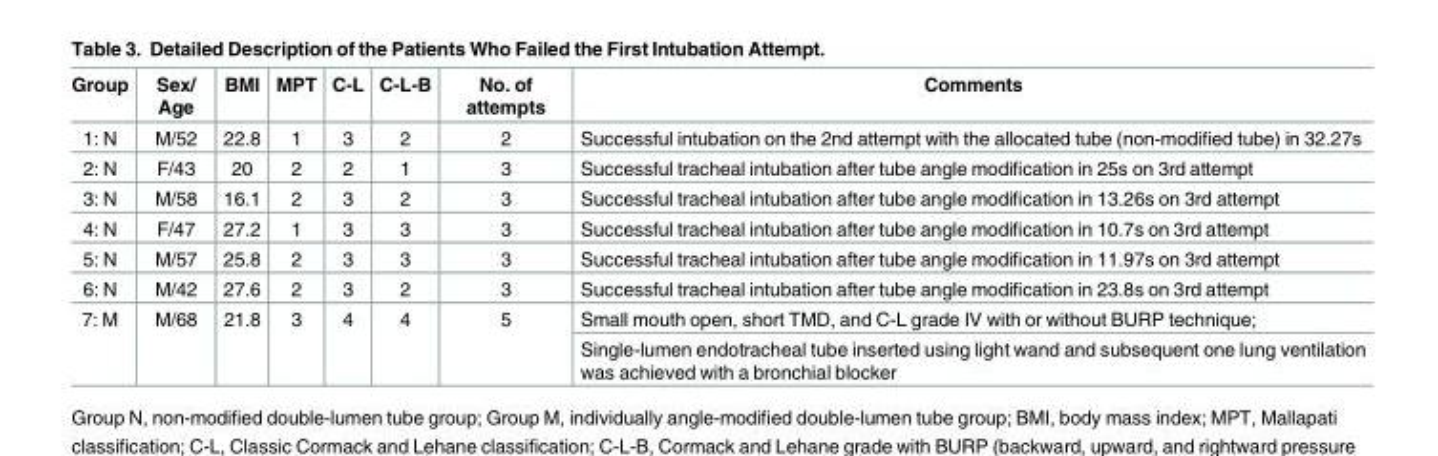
<table><thead><tr><td>Group</td><td>Sex/ Age</td><td>BMI</td><td>MPT</td><td>C-L</td><td>C-L-B</td><td>No. of attempts</td><td>Comments</td></tr></thead><tbody><tr><td>1: N</td><td>M/52</td><td>22.8</td><td>1</td><td>3</td><td>2</td><td>2</td><td>Successful intubation on the 2nd attempt with the allocated tube (non-modified tube) in 32.27s</td></tr><tr><td>2: N</td><td>F/43</td><td>20</td><td>2</td><td>2</td><td>1</td><td>3</td><td>Successful tracheal intubation after tube angle modification in 25s on 3rd attempt</td></tr><tr><td>3: N</td><td>M/58</td><td>16.1</td><td>2</td><td>3</td><td>2</td><td>3</td><td>Successful tracheal intubation after tube angle modification in 13.26s on 3rd attempt</td></tr><tr><td>4: N</td><td>F/47</td><td>27.2</td><td>1</td><td>3</td><td>3</td><td>3</td><td>Successful tracheal intubation after tube angle modification in 10.7s on 3rd attempt</td></tr><tr><td>5: N</td><td>M/57</td><td>25.8</td><td>2</td><td>3</td><td>3</td><td>3</td><td>Successful tracheal intubation after tube angle modification in 11.97s on 3rd attempt</td></tr><tr><td>6: N</td><td>M/42</td><td>27.6</td><td>2</td><td>3</td><td>2</td><td>3</td><td>Successful tracheal intubation after tube angle modification in 23.8s on 3rd attempt</td></tr><tr><td rowspan="2">7: M</td><td rowspan="2">M/68</td><td rowspan="2">21.8</td><td rowspan="2">3</td><td rowspan="2">4</td><td rowspan="2">4</td><td rowspan="2">5</td><td>Small mouth open, short TMD, and C-L grade IV with or without BURP technique;</td></tr><tr><td>Single-lumen endotracheal tube inserted using light wand and subsequent one lung ventilation was achieved with a bronchial blocker</td></tr></tbody></table>